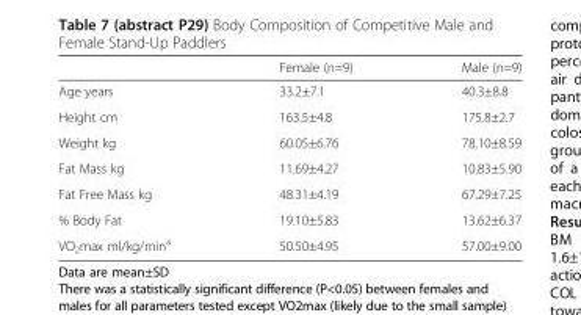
<table><thead><tr><td></td><td>Female (n=9)</td><td>Male (n=9)</td></tr></thead><tbody><tr><td>Age years</td><td>33.2±7.1</td><td>40.3±8.8</td></tr><tr><td>Height cm</td><td>163.5±4.8</td><td>175.8±2.7</td></tr><tr><td>Weight kg</td><td>60.05±6.76</td><td>78.10±8.59</td></tr><tr><td>Fat Mass kg</td><td>11.69±4.27</td><td>10.83±5.90</td></tr><tr><td>Fat Free Mass kg</td><td>48.31±4.19</td><td>67.29±7.25</td></tr><tr><td>% Body Fat</td><td>19.10±5.83</td><td>13.62±6.37</td></tr><tr><td>VO<sub>2</sub>max ml/kg/min<sup>a</sup></td><td>50.50±4.95</td><td>57.00±9.00</td></tr></tbody></table>